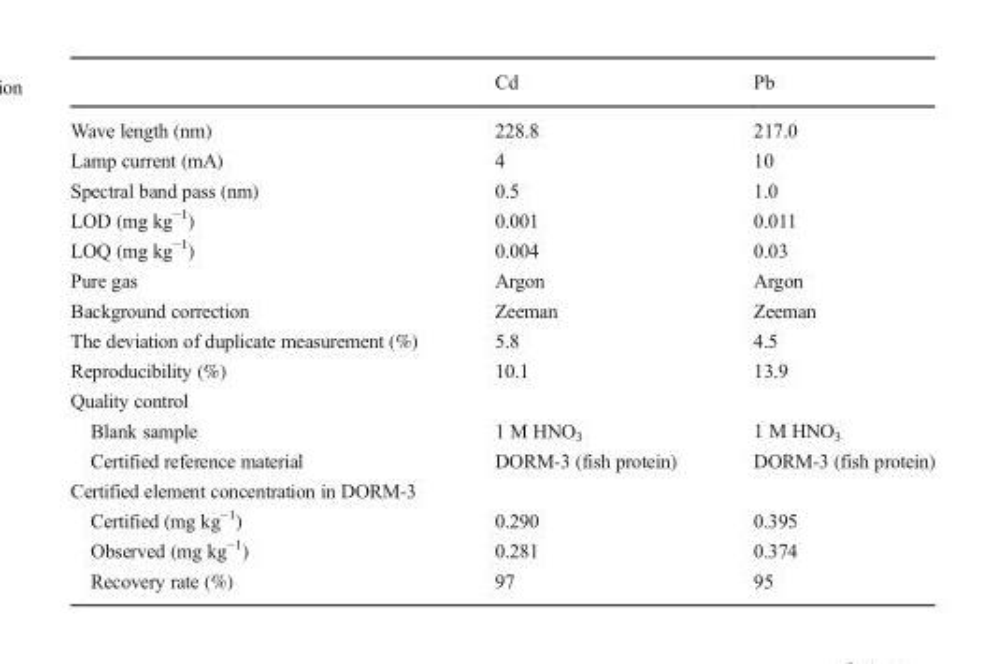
<table><thead><tr><td></td><td>Cd</td><td>Pb</td></tr></thead><tbody><tr><td>Wave length (nm)</td><td>228.8</td><td>217.0</td></tr><tr><td>Lamp current (mA)</td><td>4</td><td>10</td></tr><tr><td>Spectral band pass (nm)</td><td>0.5</td><td>1.0</td></tr><tr><td>LOD (mg kg<sup>−1</sup>)</td><td>0.001</td><td>0.011</td></tr><tr><td>LOQ (mg kg<sup>−1</sup>)</td><td>0.004</td><td>0.03</td></tr><tr><td>Pure gas</td><td>Argon</td><td>Argon</td></tr><tr><td>Background correction</td><td>Zeeman</td><td>Zeeman</td></tr><tr><td>The deviation of duplicate measurement (%)</td><td>5.8</td><td>4.5</td></tr><tr><td>Reproducibility (%)</td><td>10.1</td><td>13.9</td></tr><tr><td colspan="3">Quality control</td></tr><tr><td>Blank sample</td><td>1 M HNO<sub>3</sub></td><td>1 M HNO<sub>3</sub></td></tr><tr><td>Certified reference material</td><td>DORM-3 (fish protein)</td><td>DORM-3 (fish protein)</td></tr><tr><td colspan="3">Certified element concentration in DORM-3</td></tr><tr><td>Certified (mg kg<sup>−1</sup>)</td><td>0.290</td><td>0.395</td></tr><tr><td>Observed (mg kg<sup>−1</sup>)</td><td>0.281</td><td>0.374</td></tr><tr><td>Recovery rate (%)</td><td>97</td><td>95</td></tr></tbody></table>